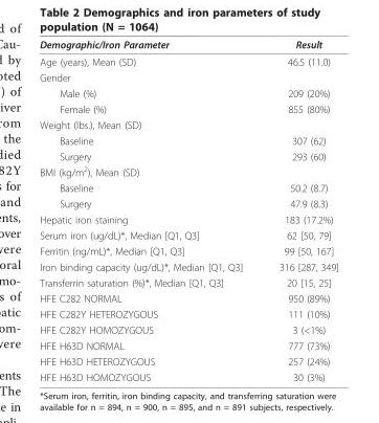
<table><thead><tr><td>Demographic/Iron Parameter</td><td>Result</td></tr></thead><tbody><tr><td>Age (years), Mean (SD)</td><td>46.5 (11.0)</td></tr><tr><td colspan="2">Gender</td></tr><tr><td>Male (%)</td><td>209 (20%)</td></tr><tr><td>Female (%)</td><td>855 (80%)</td></tr><tr><td colspan="2">Weight (lbs.), Mean (SD)</td></tr><tr><td>Baseline</td><td>307 (62)</td></tr><tr><td>Surgery</td><td>293 (60)</td></tr><tr><td colspan="2">BMI (kg/m<sup>2</sup>), Mean (SD)</td></tr><tr><td>Baseline</td><td>50.2 (8.7)</td></tr><tr><td>Surgery</td><td>47.9 (8.3)</td></tr><tr><td>Hepatic iron staining</td><td>183 (17.2%)</td></tr><tr><td>Serum iron (ug/dL)*, Median [Q1, Q3]</td><td>62 [50, 79]</td></tr><tr><td>Ferritin (ng/mL)*, Median [Q1, Q3]</td><td>99 [50, 167]</td></tr><tr><td>Iron binding capacity (ug/dL)*, Median [Q1, Q3]</td><td>316 [287, 349]</td></tr><tr><td>Transferrin saturation (%)*, Median [Q1, Q3]</td><td>20 [15, 25]</td></tr><tr><td>HFE C282 NORMAL</td><td>950 (89%)</td></tr><tr><td>HFE C282Y HETEROZYGOUS</td><td>111 (10%)</td></tr><tr><td>HFE C282Y HOMOZYGOUS</td><td>3 (&lt;1%)</td></tr><tr><td>HFE H63D NORMAL</td><td>777 (73%)</td></tr><tr><td>HFE H63D HETEROZYGOUS</td><td>257 (24%)</td></tr><tr><td>HFE H63D HOMOZYGOUS</td><td>30 (3%)</td></tr></tbody></table>